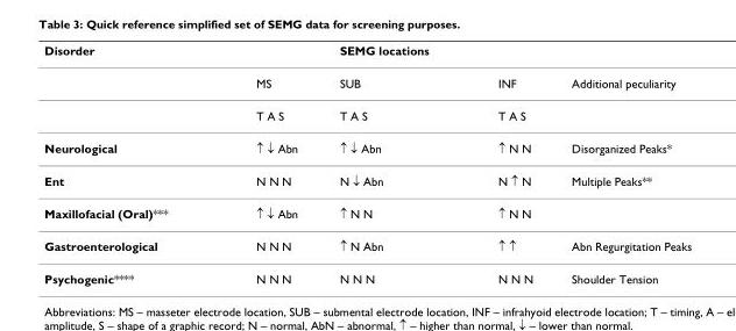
<table><thead><tr><td>Disorder</td><td></td><td>SEMG locations</td><td></td><td></td></tr></thead><tbody><tr><td></td><td>MS</td><td>SUB</td><td>INF</td><td>Additional peculiarity</td></tr><tr><td></td><td>T A S</td><td>T A S</td><td>T A S</td><td></td></tr><tr><td>Neurological</td><td>↑ ↓ Abn</td><td>↑ ↓ Abn</td><td>↑ N N</td><td>Disorganized Peaks*</td></tr><tr><td>Ent</td><td>N N N</td><td>N ↓ Abn</td><td>N ↑ N</td><td>Multiple Peaks**</td></tr><tr><td>Maxillofacial (Oral)***</td><td>↑ ↓ Abn</td><td>↑ N N</td><td>↑ N N</td><td></td></tr><tr><td>Gastroenterological</td><td>N N N</td><td>↑ N Abn</td><td>↑ ↑</td><td>Abn Regurgitation Peaks</td></tr><tr><td>Psychogenic****</td><td>N N N</td><td>N N N</td><td>N N N</td><td>Shoulder Tension</td></tr></tbody></table>